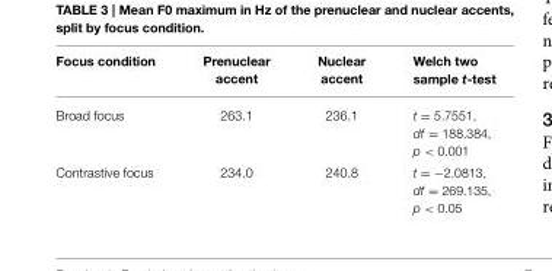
<table><thead><tr><td>Focus condition</td><td>Prenuclear accent</td><td>Nuclear accent</td><td>Welch two sample t-test</td></tr></thead><tbody><tr><td>Broad focus</td><td>263.1</td><td>236.1</td><td>t = 5.7551, df = 188.384, p &lt; 0.001</td></tr><tr><td>Contrastive focus</td><td>234.0</td><td>240.8</td><td>t = −2.0813, df = 269.135, p &lt; 0.05</td></tr></tbody></table>